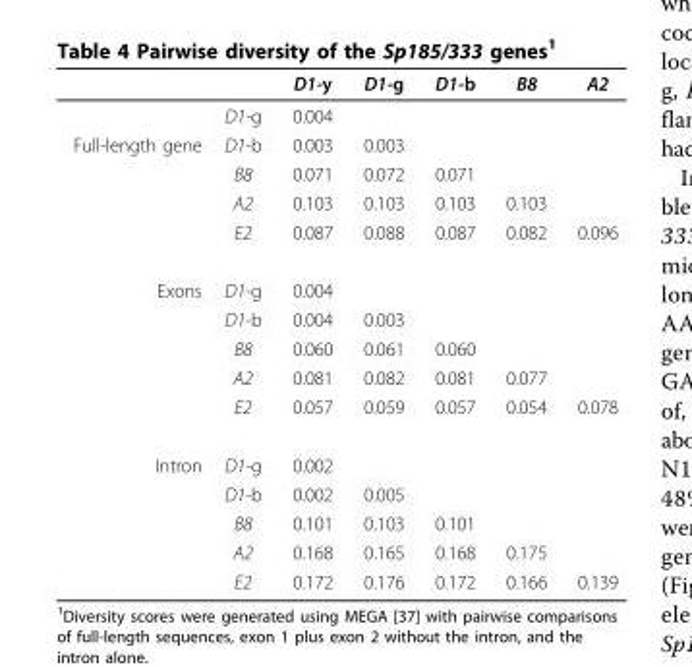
<table><thead><tr><td></td><td></td><td>D1-y</td><td>D1-g</td><td>D1-b</td><td>B8</td><td>A2</td></tr></thead><tbody><tr><td></td><td>D1-g</td><td>0.004</td><td></td><td></td><td></td><td></td></tr><tr><td rowspan="4">Full-length gene</td><td>D1-b</td><td>0.003</td><td>0.003</td><td></td><td></td><td></td></tr><tr><td>B8</td><td>0.071</td><td>0.072</td><td>0.071</td><td></td><td></td></tr><tr><td>A2</td><td>0.103</td><td>0.103</td><td>0.103</td><td>0.103</td><td></td></tr><tr><td>E2</td><td>0.087</td><td>0.088</td><td>0.087</td><td>0.082</td><td>0.096</td></tr><tr><td rowspan="5">Exons</td><td>D1-g</td><td>0.004</td><td></td><td></td><td></td><td></td></tr><tr><td>D1-b</td><td>0.004</td><td>0.003</td><td></td><td></td><td></td></tr><tr><td>B8</td><td>0.060</td><td>0.061</td><td>0.060</td><td></td><td></td></tr><tr><td>A2</td><td>0.081</td><td>0.082</td><td>0.081</td><td>0.077</td><td></td></tr><tr><td>E2</td><td>0.057</td><td>0.059</td><td>0.057</td><td>0.054</td><td>0.078</td></tr><tr><td rowspan="5">Intron</td><td>D1-g</td><td>0.002</td><td></td><td></td><td></td><td></td></tr><tr><td>D1-b</td><td>0.002</td><td>0.005</td><td></td><td></td><td></td></tr><tr><td>B8</td><td>0.101</td><td>0.103</td><td>0.101</td><td></td><td></td></tr><tr><td>A2</td><td>0.168</td><td>0.165</td><td>0.168</td><td>0.175</td><td></td></tr><tr><td>E2</td><td>0.172</td><td>0.176</td><td>0.172</td><td>0.166</td><td>0.139</td></tr></tbody></table>